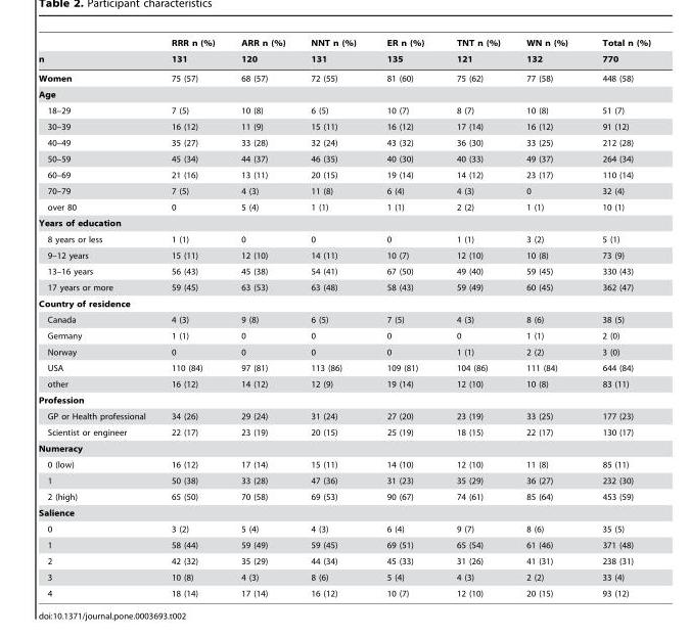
<table><thead><tr><td rowspan="2">n</td><td rowspan="2">RRR n (%) 131</td><td rowspan="2">ARR n (%) 120</td><td rowspan="2">NNT n (%) 131</td><td rowspan="2">ER n (%) 135</td><td rowspan="2">TNT n (%) 121</td><td rowspan="2">WN n (%) 132</td><td rowspan="2">Total n (%) 770</td></tr><tr></tr></thead><tbody><tr><td>Women</td><td>75 (57)</td><td>68 (57)</td><td>72 (55)</td><td>81 (60)</td><td>75 (62)</td><td>77 (58)</td><td>448 (58)</td></tr><tr><td colspan="8">Age</td></tr><tr><td>18–29</td><td>7 (5)</td><td>10 (8)</td><td>6 (5)</td><td>10 (7)</td><td>8 (7)</td><td>10 (8)</td><td>51 (7)</td></tr><tr><td>30–39</td><td>16 (12)</td><td>11 (9)</td><td>15 (11)</td><td>16 (12)</td><td>17 (14)</td><td>16 (12)</td><td>91 (12)</td></tr><tr><td>40–49</td><td>35 (27)</td><td>33 (28)</td><td>32 (24)</td><td>43 (32)</td><td>36 (30)</td><td>33 (25)</td><td>212 (28)</td></tr><tr><td>50–59</td><td>45 (34)</td><td>44 (37)</td><td>46 (35)</td><td>40 (30)</td><td>40 (33)</td><td>49 (37)</td><td>264 (34)</td></tr><tr><td>60–69</td><td>21 (16)</td><td>13 (11)</td><td>20 (15)</td><td>19 (14)</td><td>14 (12)</td><td>23 (17)</td><td>110 (14)</td></tr><tr><td>70–79</td><td>7 (5)</td><td>4 (3)</td><td>11 (8)</td><td>6 (4)</td><td>4 (3)</td><td>0</td><td>32 (4)</td></tr><tr><td>over 80</td><td>0</td><td>5 (4)</td><td>1 (1)</td><td>1 (1)</td><td>2 (2)</td><td>1 (1)</td><td>10 (1)</td></tr><tr><td colspan="8">Years of education</td></tr><tr><td>8 years or less</td><td>1 (1)</td><td>0</td><td>0</td><td>0</td><td>1 (1)</td><td>3 (2)</td><td>5 (1)</td></tr><tr><td>9–12 years</td><td>15 (11)</td><td>12 (10)</td><td>14 (11)</td><td>10 (7)</td><td>12 (10)</td><td>10 (8)</td><td>73 (9)</td></tr><tr><td>13–16 years</td><td>56 (43)</td><td>45 (38)</td><td>54 (41)</td><td>67 (50)</td><td>49 (40)</td><td>59 (45)</td><td>330 (43)</td></tr><tr><td>17 years or more</td><td>59 (45)</td><td>63 (53)</td><td>63 (48)</td><td>58 (43)</td><td>59 (49)</td><td>60 (45)</td><td>362 (47)</td></tr><tr><td colspan="8">Country of residence</td></tr><tr><td>Canada</td><td>4 (3)</td><td>9 (8)</td><td>6 (5)</td><td>7 (5)</td><td>4 (3)</td><td>8 (6)</td><td>38 (5)</td></tr><tr><td>Germany</td><td>1 (1)</td><td>0</td><td>0</td><td>0</td><td>0</td><td>1 (1)</td><td>2 (0)</td></tr><tr><td>Norway</td><td>0</td><td>0</td><td>0</td><td>0</td><td>1 (1)</td><td>2 (2)</td><td>3 (0)</td></tr><tr><td>USA</td><td>110 (84)</td><td>97 (81)</td><td>113 (86)</td><td>109 (81)</td><td>104 (86)</td><td>111 (84)</td><td>644 (84)</td></tr><tr><td>other</td><td>16 (12)</td><td>14 (12)</td><td>12 (9)</td><td>19 (14)</td><td>12 (10)</td><td>10 (8)</td><td>83 (11)</td></tr><tr><td colspan="8">Profession</td></tr><tr><td>GP or Health professional</td><td>34 (26)</td><td>29 (24)</td><td>31 (24)</td><td>27 (20)</td><td>23 (19)</td><td>33 (25)</td><td>177 (23)</td></tr><tr><td>Scientist or engineer</td><td>22 (17)</td><td>23 (19)</td><td>20 (15)</td><td>25 (19)</td><td>18 (15)</td><td>22 (17)</td><td>130 (17)</td></tr><tr><td colspan="8">Numeracy</td></tr><tr><td>0 (low)</td><td>16 (12)</td><td>17 (14)</td><td>15 (11)</td><td>14 (10)</td><td>12 (10)</td><td>11 (8)</td><td>85 (11)</td></tr><tr><td>1</td><td>50 (38)</td><td>33 (28)</td><td>47 (36)</td><td>31 (23)</td><td>35 (29)</td><td>36 (27)</td><td>232 (30)</td></tr><tr><td>2 (high)</td><td>65 (50)</td><td>70 (58)</td><td>69 (53)</td><td>90 (67)</td><td>74 (61)</td><td>85 (64)</td><td>453 (59)</td></tr><tr><td colspan="8">Salience</td></tr><tr><td>0</td><td>3 (2)</td><td>5 (4)</td><td>4 (3)</td><td>6 (4)</td><td>9 (7)</td><td>8 (6)</td><td>35 (5)</td></tr><tr><td>1</td><td>58 (44)</td><td>59 (49)</td><td>59 (45)</td><td>69 (51)</td><td>65 (54)</td><td>61 (46)</td><td>371 (48)</td></tr><tr><td>2</td><td>42 (32)</td><td>35 (29)</td><td>44 (34)</td><td>45 (33)</td><td>31 (26)</td><td>41 (31)</td><td>238 (31)</td></tr><tr><td>3</td><td>10 (8)</td><td>4 (3)</td><td>8 (6)</td><td>5 (4)</td><td>4 (3)</td><td>2 (2)</td><td>33 (4)</td></tr><tr><td>4</td><td>18 (14)</td><td>17 (14)</td><td>16 (12)</td><td>10 (7)</td><td>12 (10)</td><td>20 (15)</td><td>93 (12)</td></tr></tbody></table>